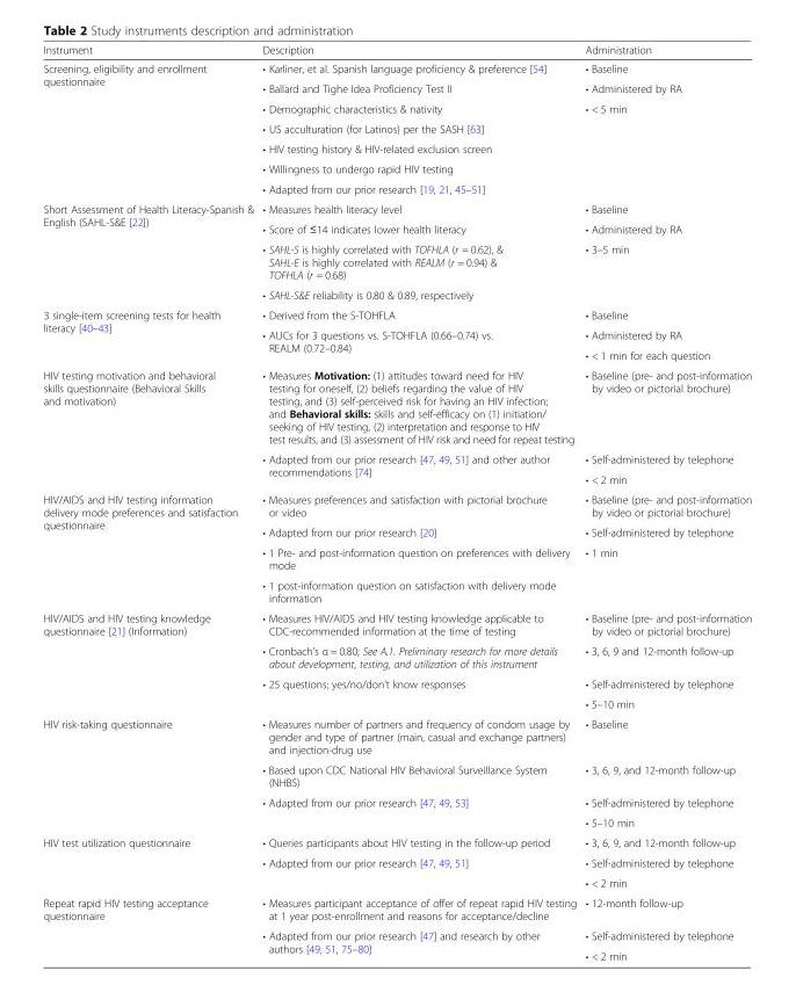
<table><thead><tr><td>Instrument</td><td>Description</td><td>Administration</td></tr></thead><tbody><tr><td rowspan="7">Screening, eligibility and enrollment questionnaire</td><td>• Karliner, et al. Spanish language proficiency &amp; preference [54]</td><td>• Baseline</td></tr><tr><td>• Ballard and Tighe Idea Proficiency Test II</td><td>• Administered by RA</td></tr><tr><td>• Demographic characteristics &amp; nativity</td><td>• &lt; 5 min</td></tr><tr><td>• US acculturation (for Latinos) per the SASH [63]</td><td></td></tr><tr><td>• HIV testing history &amp; HIV-related exclusion screen</td><td></td></tr><tr><td>• Willingness to undergo rapid HIV testing</td><td></td></tr><tr><td>• Adapted from our prior research [19, 21, 45–51]</td><td></td></tr><tr><td rowspan="4">Short Assessment of Health Literacy-Spanish &amp; English (SAHL-S&amp;E [22])</td><td>• Measures health literacy level</td><td>• Baseline</td></tr><tr><td>• Score of ≤14 indicates lower health literacy</td><td>• Administered by RA</td></tr><tr><td>• SAHL-S is highly correlated with TOFHLA (r = 0.62), &amp; SAHL-E is highly correlated with REALM (r = 0.94) &amp; TOFHLA (r = 0.68)</td><td rowspan="2">• 3–5 min</td></tr><tr><td>• SAHL-S&amp;E reliability is 0.80 &amp; 0.89, respectively</td></tr><tr><td rowspan="3">3 single-item screening tests for health literacy [40–43]</td><td>• Derived from the S-TOHFLA</td><td>• Baseline</td></tr><tr><td rowspan="2">• AUCs for 3 questions vs. S-TOHFLA (0.66–0.74) vs. REALM (0.72–0.84)</td><td>• Administered by RA</td></tr><tr><td>• &lt; 1 min for each question</td></tr><tr><td rowspan="3">HIV testing motivation and behavioral skills questionnaire (Behavioral Skills and motivation)</td><td>• Measures Motivation: (1) attitudes toward need for HIV testing for oneself, (2) beliefs regarding the value of HIV testing, and (3) self-perceived risk for having an HIV infection; and Behavioral skills: skills and self-efficacy on (1) initiation/ seeking of HIV testing, (2) interpretation and response to HIV test results, and (3) assessment of HIV risk and need for repeat testing</td><td>• Baseline (pre- and post-information by video or pictorial brochure)</td></tr><tr><td rowspan="2">• Adapted from our prior research [47, 49, 51] and other author recommendations [74]</td><td>• Self-administered by telephone</td></tr><tr><td>• &lt; 2 min</td></tr><tr><td rowspan="4">HIV/AIDS and HIV testing information delivery mode preferences and satisfaction questionnaire</td><td>• Measures preferences and satisfaction with pictorial brochure or video</td><td>• Baseline (pre- and post-information by video or pictorial brochure)</td></tr><tr><td>• Adapted from our prior research [20]</td><td>• Self-administered by telephone</td></tr><tr><td>• 1 Pre- and post-information question on preferences with delivery mode</td><td rowspan="2">• 1 min</td></tr><tr><td>• 1 post-information question on satisfaction with delivery mode information</td></tr><tr><td rowspan="4">HIV/AIDS and HIV testing knowledge questionnaire [21] (Information)</td><td>• Measures HIV/AIDS and HIV testing knowledge applicable to CDC-recommended information at the time of testing</td><td>• Baseline (pre- and post-information by video or pictorial brochure)</td></tr><tr><td>• Cronbach’s α = 0.80; See A.1. Preliminary research for more details about development, testing, and utilization of this instrument</td><td>• 3, 6, 9 and 12-month follow-up</td></tr><tr><td rowspan="2">• 25 questions; yes/no/don’t know responses</td><td>• Self-administered by telephone</td></tr><tr><td>• 5–10 min</td></tr><tr><td rowspan="4">HIV risk-taking questionnaire</td><td>• Measures number of partners and frequency of condom usage by gender and type of partner (main, casual and exchange partners) and injection-drug use</td><td>• Baseline</td></tr><tr><td>• Based upon CDC National HIV Behavioral Surveillance System (NHBS)</td><td>• 3, 6, 9, and 12-month follow-up</td></tr><tr><td rowspan="2">• Adapted from our prior research [47, 49, 53]</td><td>• Self-administered by telephone</td></tr><tr><td>• 5–10 min</td></tr><tr><td rowspan="3">HIV test utilization questionnaire</td><td>• Queries participants about HIV testing in the follow-up period</td><td>• 3, 6, 9, and 12-month follow-up</td></tr><tr><td rowspan="2">• Adapted from our prior research [47, 49, 51]</td><td>• Self-administered by telephone</td></tr><tr><td>• &lt; 2 min</td></tr><tr><td rowspan="3">Repeat rapid HIV testing acceptance questionnaire</td><td>• Measures participant acceptance of offer of repeat rapid HIV testing at 1 year post-enrollment and reasons for acceptance/decline</td><td>• 12-month follow-up</td></tr><tr><td rowspan="2">• Adapted from our prior research [47] and research by other authors [49, 51, 75–80]</td><td>• Self-administered by telephone</td></tr><tr><td>• &lt; 2 min</td></tr></tbody></table>